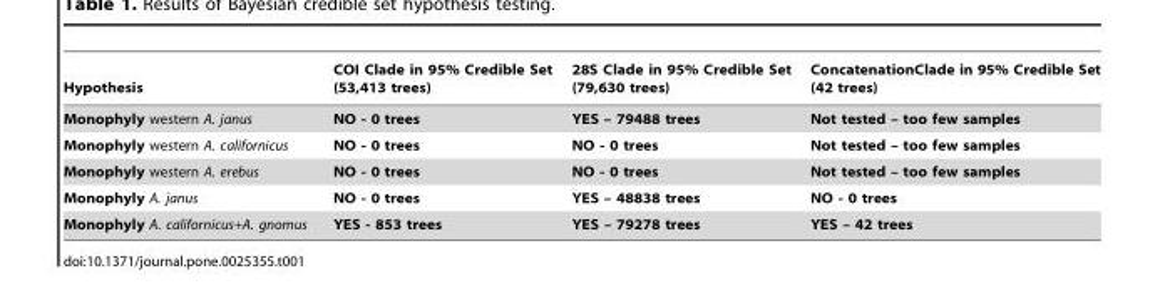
<table><thead><tr><td>Hypothesis</td><td>COI Clade in 95% Credible Set (53,413 trees)</td><td>28S Clade in 95% Credible Set (79,630 trees)</td><td>ConcatenationClade in 95% Credible Set (42 trees)</td></tr></thead><tbody><tr><td>Monophyly western A. janus</td><td>NO - 0 trees</td><td>YES – 79488 trees</td><td>Not tested – too few samples</td></tr><tr><td>Monophyly western A. californicus</td><td>NO - 0 trees</td><td>NO - 0 trees</td><td>Not tested – too few samples</td></tr><tr><td>Monophyly western A. erebus</td><td>NO - 0 trees</td><td>NO - 0 trees</td><td>Not tested – too few samples</td></tr><tr><td>Monophyly A. janus</td><td>NO - 0 trees</td><td>YES – 48838 trees</td><td>NO - 0 trees</td></tr><tr><td>Monophyly A. californicus+A. gnomus</td><td>YES - 853 trees</td><td>YES – 79278 trees</td><td>YES – 42 trees</td></tr></tbody></table>